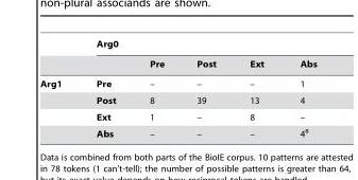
<table><thead><tr><td rowspan="2"></td><td colspan="5">Arg0</td></tr><tr><td></td><td>Pre</td><td>Post</td><td>Ext</td><td>Abs</td></tr></thead><tbody><tr><td rowspan="4">Arg1</td><td>Pre</td><td>–</td><td>–</td><td>–</td><td>1</td></tr><tr><td>Post</td><td>8</td><td>39</td><td>13</td><td>4</td></tr><tr><td>Ext</td><td>1</td><td>–</td><td>8</td><td>–</td></tr><tr><td>Abs</td><td>–</td><td>–</td><td>–</td><td>4<sup>8</sup></td></tr></tbody></table>